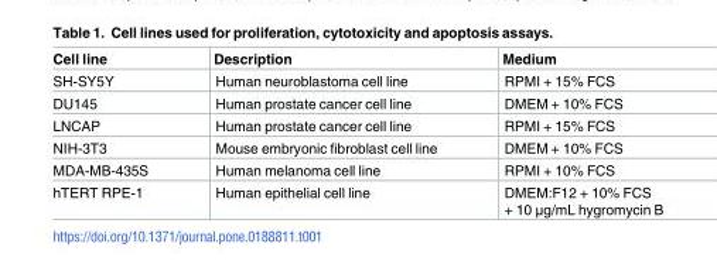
<table><thead><tr><td>Cell line</td><td>Description</td><td>Medium</td></tr></thead><tbody><tr><td>SH-SY5Y</td><td>Human neuroblastoma cell line</td><td>RPMI + 15% FCS</td></tr><tr><td>DU145</td><td>Human prostate cancer cell line</td><td>DMEM + 10% FCS</td></tr><tr><td>LNCAP</td><td>Human prostate cancer cell line</td><td>RPMI + 15% FCS</td></tr><tr><td>NIH-3T3</td><td>Mouse embryonic fibroblast cell line</td><td>DMEM + 10% FCS</td></tr><tr><td>MDA-MB-435S</td><td>Human melanoma cell line</td><td>RPMI + 10% FCS</td></tr><tr><td>hTERT RPE-1</td><td>Human epithelial cell line</td><td>DMEM:F12 + 10% FCS + 10 μg/mL hygromycin B</td></tr></tbody></table>